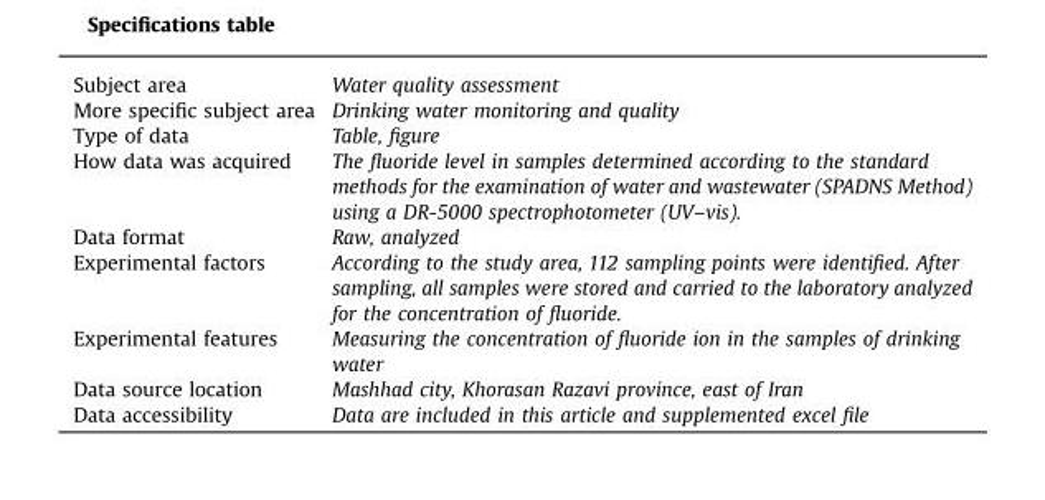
<table><tbody><tr><td>Subject area</td><td>Water quality assessment</td></tr><tr><td>More specific subject area</td><td>Drinking water monitoring and quality</td></tr><tr><td>Type of data</td><td>Table, figure</td></tr><tr><td>How data was acquired</td><td>The fluoride level in samples determined according to the standard methods for the examination of water and wastewater (SPADNS Method) using a DR-5000 spectrophotometer (UV–vis).</td></tr><tr><td>Data format</td><td>Raw, analyzed</td></tr><tr><td>Experimental factors</td><td>According to the study area, 112 sampling points were identified. After sampling, all samples were stored and carried to the laboratory analyzed for the concentration of fluoride.</td></tr><tr><td>Experimental features</td><td>Measuring the concentration of fluoride ion in the samples of drinking water</td></tr><tr><td>Data source location</td><td>Mashhad city, Khorasan Razavi province, east of Iran</td></tr><tr><td>Data accessibility</td><td>Data are included in this article and supplemented excel file</td></tr></tbody></table>